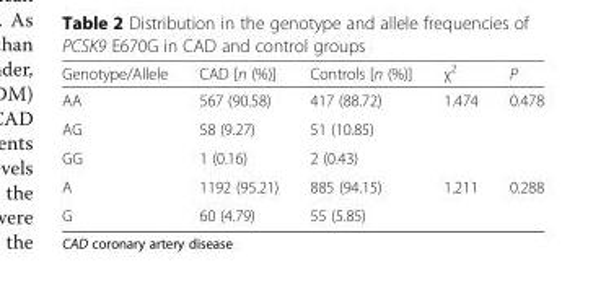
<table><thead><tr><td>Genotype/Allele</td><td>CAD [n (%)]</td><td>Controls [n (%)]</td><td>χ<sup>2</sup></td><td>P</td></tr></thead><tbody><tr><td>AA</td><td>567 (90.58)</td><td>417 (88.72)</td><td rowspan="3">1.474</td><td rowspan="3">0.478</td></tr><tr><td>AG</td><td>58 (9.27)</td><td>51 (10.85)</td></tr><tr><td>GG</td><td>1 (0.16)</td><td>2 (0.43)</td></tr><tr><td>A</td><td>1192 (95.21)</td><td>885 (94.15)</td><td rowspan="2">1.211</td><td rowspan="2">0.288</td></tr><tr><td>G</td><td>60 (4.79)</td><td>55 (5.85)</td></tr></tbody></table>